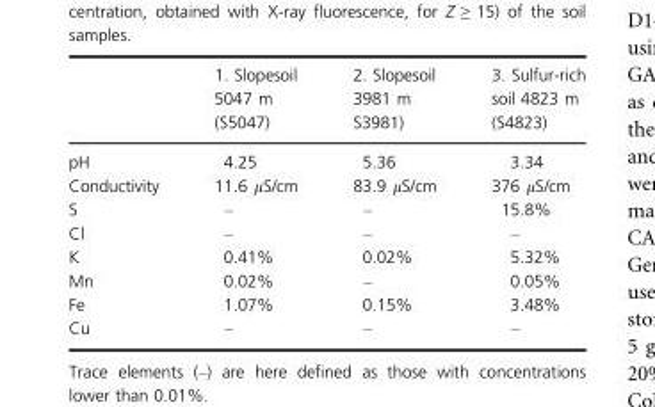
<table><thead><tr><td></td><td>1. Slopesoil 5047 m (S5047)</td><td>2. Slopesoil 3981 m S3981)</td><td>3. Sulfur-rich soil 4823 m (S4823)</td></tr></thead><tbody><tr><td>pH</td><td>4.25</td><td>5.36</td><td>3.34</td></tr><tr><td>Conductivity</td><td>11.6 μS/cm</td><td>83.9 μS/cm</td><td>376 μS/cm</td></tr><tr><td>S</td><td>–</td><td>–</td><td>15.8%</td></tr><tr><td>Cl</td><td>–</td><td>–</td><td>–</td></tr><tr><td>K</td><td>0.41%</td><td>0.02%</td><td>5.32%</td></tr><tr><td>Mn</td><td>0.02%</td><td>–</td><td>0.05%</td></tr><tr><td>Fe</td><td>1.07%</td><td>0.15%</td><td>3.48%</td></tr><tr><td>Cu</td><td>–</td><td>–</td><td>–</td></tr></tbody></table>